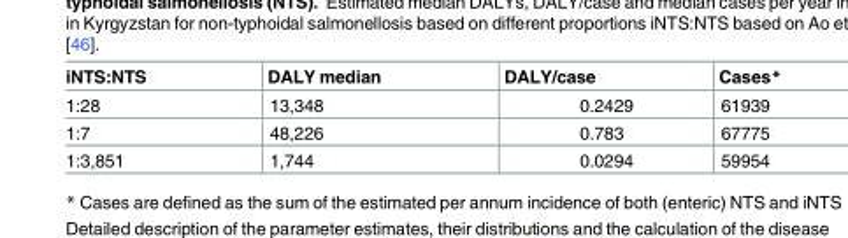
<table><thead><tr><td>iNTS:NTS</td><td>DALY median</td><td>DALY/case</td><td>Cases*</td></tr></thead><tbody><tr><td>1:28</td><td>13,348</td><td>0.2429</td><td>61939</td></tr><tr><td>1:7</td><td>48,226</td><td>0.783</td><td>67775</td></tr><tr><td>1:3,851</td><td>1,744</td><td>0.0294</td><td>59954</td></tr></tbody></table>